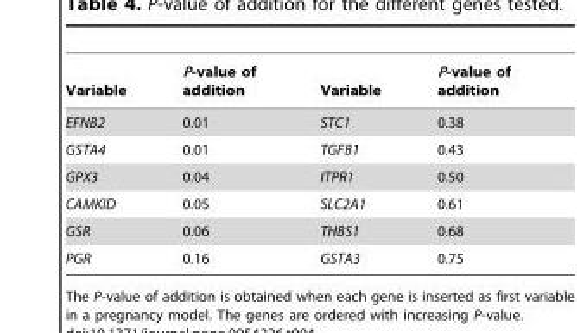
<table><thead><tr><td>Variable</td><td>P-value of addition</td><td>Variable</td><td>P-value of addition</td></tr></thead><tbody><tr><td>EFNB2</td><td>0.01</td><td>STC1</td><td>0.38</td></tr><tr><td>GSTA4</td><td>0.01</td><td>TGFB1</td><td>0.43</td></tr><tr><td>GPX3</td><td>0.04</td><td>ITPR1</td><td>0.50</td></tr><tr><td>CAMKID</td><td>0.05</td><td>SLC2A1</td><td>0.61</td></tr><tr><td>GSR</td><td>0.06</td><td>THBS1</td><td>0.68</td></tr><tr><td>PGR</td><td>0.16</td><td>GSTA3</td><td>0.75</td></tr></tbody></table>